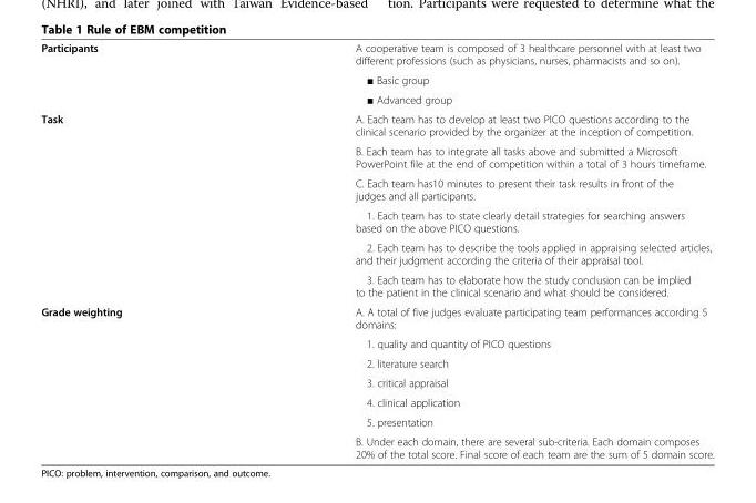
<table><tbody><tr><td rowspan="3">Participants</td><td>A cooperative team is composed of 3 healthcare personnel with at least two different professions (such as physicians, nurses, pharmacists and so on).</td></tr><tr><td>■ Basic group</td></tr><tr><td>■ Advanced group</td></tr><tr><td rowspan="6">Task</td><td>A. Each team has to develop at least two PICO questions according to the clinical scenario provided by the organizer at the inception of competition.</td></tr><tr><td>B. Each team has to integrate all tasks above and submitted a Microsoft PowerPoint file at the end of competition within a total of 3 hours timeframe.</td></tr><tr><td>C. Each team has10 minutes to present their task results in front of the judges and all participants.</td></tr><tr><td>1. Each team has to state clearly detail strategies for searching answers based on the above PICO questions.</td></tr><tr><td>2. Each team has to describe the tools applied in appraising selected articles, and their judgment according the criteria of their appraisal tool.</td></tr><tr><td>3. Each team has to elaborate how the study conclusion can be implied to the patient in the clinical scenario and what should be considered.</td></tr><tr><td rowspan="7">Grade weighting</td><td>A. A total of five judges evaluate participating team performances according 5 domains:</td></tr><tr><td>1. quality and quantity of PICO questions</td></tr><tr><td>2. literature search</td></tr><tr><td>3. critical appraisal</td></tr><tr><td>4. clinical application</td></tr><tr><td>5. presentation</td></tr><tr><td>B. Under each domain, there are several sub-criteria. Each domain composes 20% of the total score. Final score of each team are the sum of 5 domain score.</td></tr></tbody></table>